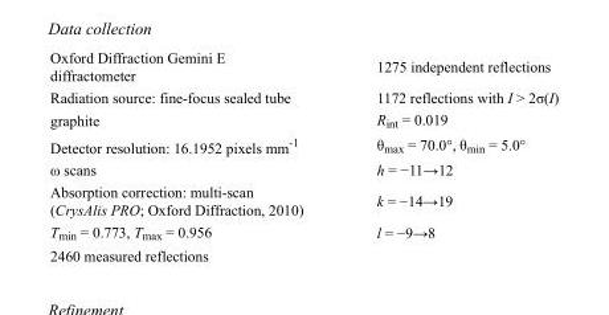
<table><tbody><tr><td>Oxford Diffraction Gemini E diffractometer</td><td>1275 independent reflections</td></tr><tr><td>Radiation source: fine-focus sealed tube</td><td>1172 reflections with I &gt; 2σ(I)</td></tr><tr><td>graphite</td><td>R<sub>int</sub> = 0.019</td></tr><tr><td>Detector resolution: 16.1952 pixels mm<sup>-1</sup></td><td>θ<sub>max</sub> = 70.0°, θ<sub>min</sub> = 5.0°</td></tr><tr><td>ω scans</td><td>h = −11→12</td></tr><tr><td>Absorption correction: multi-scan (CrysAlis PRO; Oxford Diffraction, 2010)</td><td>k = −14→19</td></tr><tr><td>T<sub>min</sub> = 0.773, T<sub>max</sub> = 0.956</td><td>l = −9→8</td></tr><tr><td>2460 measured reflections</td><td></td></tr></tbody></table>